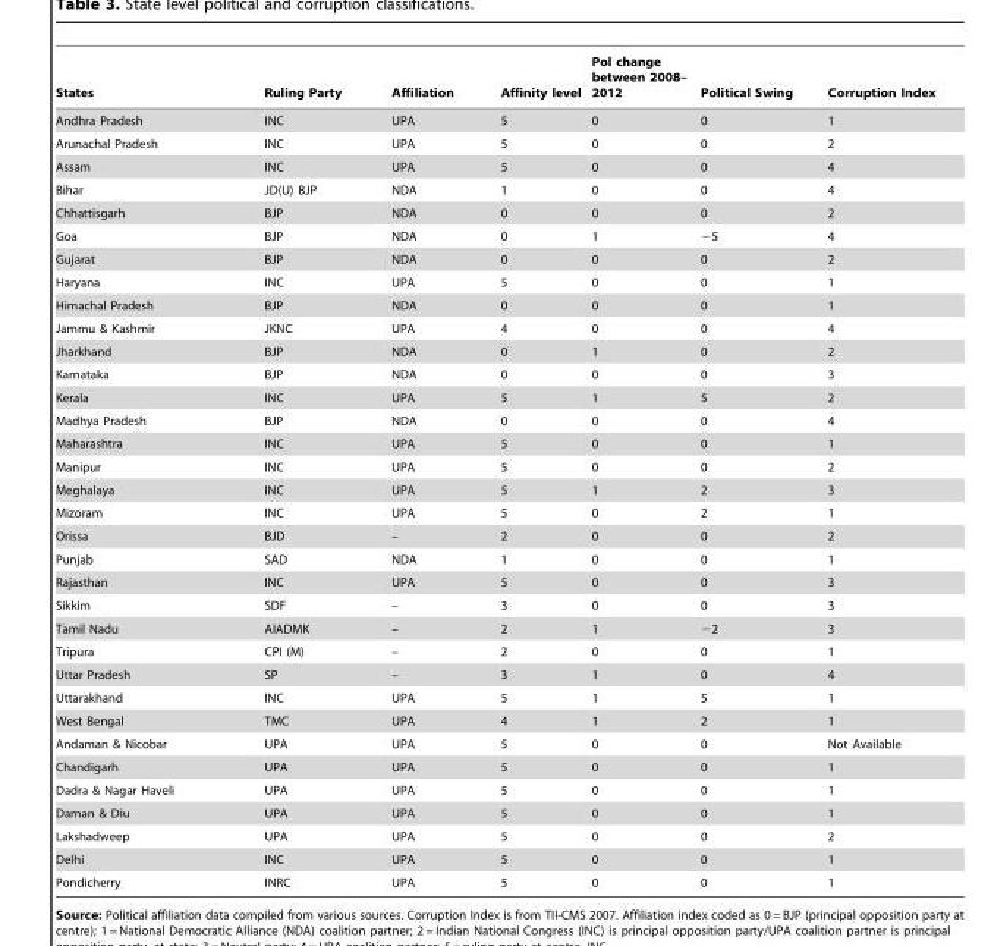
<table><thead><tr><td>States</td><td>Ruling Party</td><td>Affiliation</td><td>Affinity level</td><td>Pol change between 2008– 2012</td><td>Political Swing</td><td>Corruption Index</td></tr></thead><tbody><tr><td>Andhra Pradesh</td><td>INC</td><td>UPA</td><td>5</td><td>0</td><td>0</td><td>1</td></tr><tr><td>Arunachal Pradesh</td><td>INC</td><td>UPA</td><td>5</td><td>0</td><td>0</td><td>2</td></tr><tr><td>Assam</td><td>INC</td><td>UPA</td><td>5</td><td>0</td><td>0</td><td>4</td></tr><tr><td>Bihar</td><td>JD(U) BJP</td><td>NDA</td><td>1</td><td>0</td><td>0</td><td>4</td></tr><tr><td>Chhattisgarh</td><td>BJP</td><td>NDA</td><td>0</td><td>0</td><td>0</td><td>2</td></tr><tr><td>Goa</td><td>BJP</td><td>NDA</td><td>0</td><td>1</td><td>−5</td><td>4</td></tr><tr><td>Gujarat</td><td>BJP</td><td>NDA</td><td>0</td><td>0</td><td>0</td><td>2</td></tr><tr><td>Haryana</td><td>INC</td><td>UPA</td><td>5</td><td>0</td><td>0</td><td>1</td></tr><tr><td>Himachal Pradesh</td><td>BJP</td><td>NDA</td><td>0</td><td>0</td><td>0</td><td>1</td></tr><tr><td>Jammu &amp; Kashmir</td><td>JKNC</td><td>UPA</td><td>4</td><td>0</td><td>0</td><td>4</td></tr><tr><td>Jharkhand</td><td>BJP</td><td>NDA</td><td>0</td><td>1</td><td>0</td><td>2</td></tr><tr><td>Karnataka</td><td>BJP</td><td>NDA</td><td>0</td><td>0</td><td>0</td><td>3</td></tr><tr><td>Kerala</td><td>INC</td><td>UPA</td><td>5</td><td>1</td><td>5</td><td>2</td></tr><tr><td>Madhya Pradesh</td><td>BJP</td><td>NDA</td><td>0</td><td>0</td><td>0</td><td>4</td></tr><tr><td>Maharashtra</td><td>INC</td><td>UPA</td><td>5</td><td>0</td><td>0</td><td>1</td></tr><tr><td>Manipur</td><td>INC</td><td>UPA</td><td>5</td><td>0</td><td>0</td><td>2</td></tr><tr><td>Meghalaya</td><td>INC</td><td>UPA</td><td>5</td><td>1</td><td>2</td><td>3</td></tr><tr><td>Mizoram</td><td>INC</td><td>UPA</td><td>5</td><td>0</td><td>2</td><td>1</td></tr><tr><td>Orissa</td><td>BJD</td><td>–</td><td>2</td><td>0</td><td>0</td><td>2</td></tr><tr><td>Punjab</td><td>SAD</td><td>NDA</td><td>1</td><td>0</td><td>0</td><td>1</td></tr><tr><td>Rajasthan</td><td>INC</td><td>UPA</td><td>5</td><td>0</td><td>0</td><td>3</td></tr><tr><td>Sikkim</td><td>SDF</td><td>–</td><td>3</td><td>0</td><td>0</td><td>3</td></tr><tr><td>Tamil Nadu</td><td>AIADMK</td><td>–</td><td>2</td><td>1</td><td>−2</td><td>3</td></tr><tr><td>Tripura</td><td>CPI (M)</td><td>–</td><td>2</td><td>0</td><td>0</td><td>1</td></tr><tr><td>Uttar Pradesh</td><td>SP</td><td>–</td><td>3</td><td>1</td><td>0</td><td>4</td></tr><tr><td>Uttarakhand</td><td>INC</td><td>UPA</td><td>5</td><td>1</td><td>5</td><td>1</td></tr><tr><td>West Bengal</td><td>TMC</td><td>UPA</td><td>4</td><td>1</td><td>2</td><td>1</td></tr><tr><td>Andaman &amp; Nicobar</td><td>UPA</td><td>UPA</td><td>5</td><td>0</td><td>0</td><td>Not Available</td></tr><tr><td>Chandigarh</td><td>UPA</td><td>UPA</td><td>5</td><td>0</td><td>0</td><td>1</td></tr><tr><td>Dadra &amp; Nagar Haveli</td><td>UPA</td><td>UPA</td><td>5</td><td>0</td><td>0</td><td>1</td></tr><tr><td>Daman &amp; Diu</td><td>UPA</td><td>UPA</td><td>5</td><td>0</td><td>0</td><td>1</td></tr><tr><td>Lakshadweep</td><td>UPA</td><td>UPA</td><td>5</td><td>0</td><td>0</td><td>2</td></tr><tr><td>Delhi</td><td>INC</td><td>UPA</td><td>5</td><td>0</td><td>0</td><td>1</td></tr><tr><td>Pondicherry</td><td>INRC</td><td>UPA</td><td>5</td><td>0</td><td>0</td><td>1</td></tr></tbody></table>